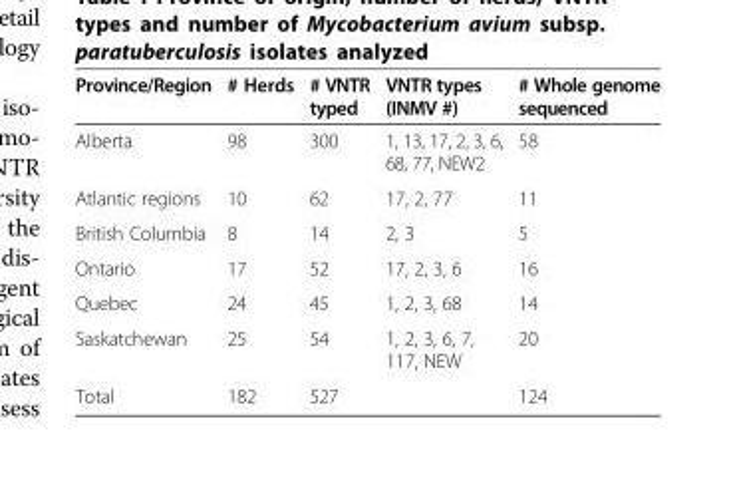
<table><thead><tr><td>Province/Region</td><td># Herds</td><td># VNTR typed</td><td>VNTR types (INMV #)</td><td># Whole genome sequenced</td></tr></thead><tbody><tr><td>Alberta</td><td>98</td><td>300</td><td>1, 13, 17, 2, 3, 6, 68, 77, NEW2</td><td>58</td></tr><tr><td>Atlantic regions</td><td>10</td><td>62</td><td>17, 2, 77</td><td>11</td></tr><tr><td>British Columbia</td><td>8</td><td>14</td><td>2, 3</td><td>5</td></tr><tr><td>Ontario</td><td>17</td><td>52</td><td>17, 2, 3, 6</td><td>16</td></tr><tr><td>Quebec</td><td>24</td><td>45</td><td>1, 2, 3, 68</td><td>14</td></tr><tr><td>Saskatchewan</td><td>25</td><td>54</td><td>1, 2, 3, 6, 7, 117, NEW</td><td>20</td></tr><tr><td>Total</td><td>182</td><td>527</td><td></td><td>124</td></tr></tbody></table>